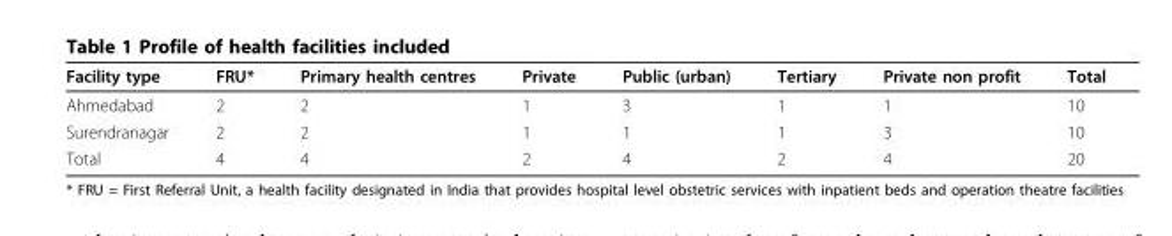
<table><thead><tr><td>Facility type</td><td>FRU*</td><td>Primary health centres</td><td>Private</td><td>Public (urban)</td><td>Tertiary</td><td>Private non profit</td><td>Total</td></tr></thead><tbody><tr><td>Ahmedabad</td><td>2</td><td>2</td><td>1</td><td>3</td><td>1</td><td>1</td><td>10</td></tr><tr><td>Surendranagar</td><td>2</td><td>2</td><td>1</td><td>1</td><td>1</td><td>3</td><td>10</td></tr><tr><td>Total</td><td>4</td><td>4</td><td>2</td><td>4</td><td>2</td><td>4</td><td>20</td></tr></tbody></table>